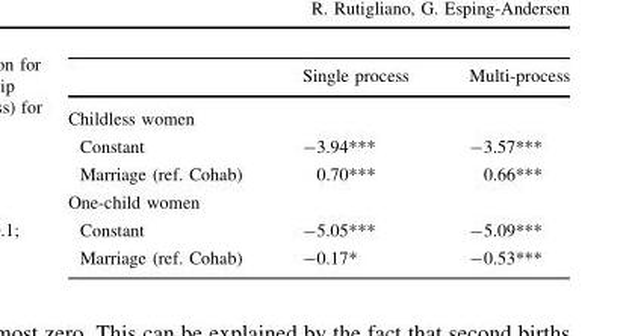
<table><thead><tr><td></td><td>Single process</td><td>Multi-process</td></tr></thead><tbody><tr><td colspan="3">Childless women</td></tr><tr><td>Constant</td><td>-3.94***</td><td>-3.57***</td></tr><tr><td>Marriage (ref. Cohab)</td><td>0.70***</td><td>0.66***</td></tr><tr><td colspan="3">One-child women</td></tr><tr><td>Constant</td><td>-5.05***</td><td>-5.09***</td></tr><tr><td>Marriage (ref. Cohab)</td><td>-0.17*</td><td>-0.53***</td></tr></tbody></table>